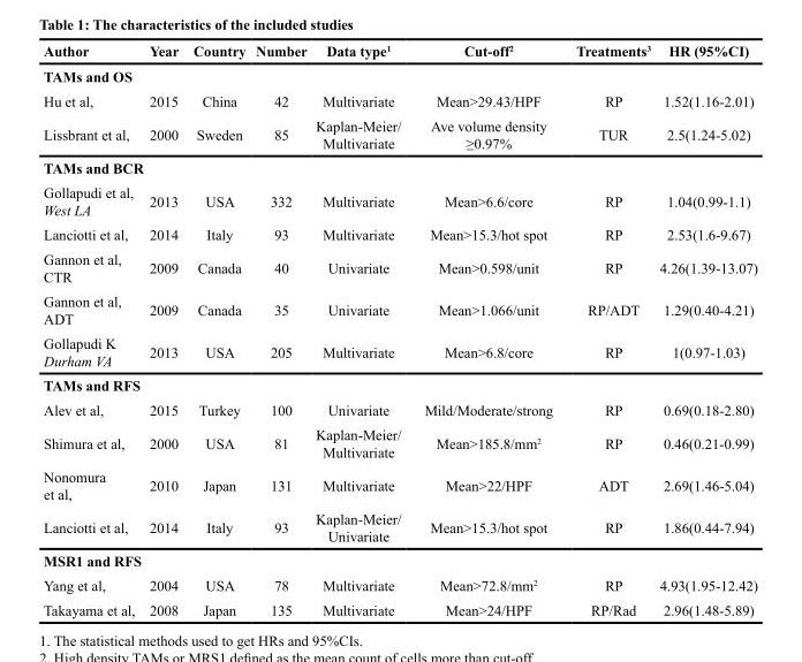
<table><thead><tr><td>Author</td><td>Year</td><td>Country</td><td>Number</td><td>Data type<sup>1</sup></td><td>Cut-off<sup>2</sup></td><td>Treatments<sup>3</sup></td><td>HR (95%CI)</td></tr></thead><tbody><tr><td colspan="8">TAMs and OS</td></tr><tr><td>Hu et al,</td><td>2015</td><td>China</td><td>42</td><td>Multivariate</td><td>Mean&gt;29.43/HPF</td><td>RP</td><td>1.52(1.16-2.01)</td></tr><tr><td>Lissbrant et al,</td><td>2000</td><td>Sweden</td><td>85</td><td>Kaplan-Meier/ Multivariate</td><td>Ave volume density ≥0.97%</td><td>TUR</td><td>2.5(1.24-5.02)</td></tr><tr><td colspan="8">TAMs and BCR</td></tr><tr><td>Gollapudi et al, West LA</td><td>2013</td><td>USA</td><td>332</td><td>Multivariate</td><td>Mean&gt;6.6/core</td><td>RP</td><td>1.04(0.99-1.1)</td></tr><tr><td>Lanciotti et al,</td><td>2014</td><td>Italy</td><td>93</td><td>Multivariate</td><td>Mean&gt;15.3/hot spot</td><td>RP</td><td>2.53(1.6-9.67)</td></tr><tr><td>Gannon et al, CTR</td><td>2009</td><td>Canada</td><td>40</td><td>Univariate</td><td>Mean&gt;0.598/unit</td><td>RP</td><td>4.26(1.39-13.07)</td></tr><tr><td>Gannon et al, ADT</td><td>2009</td><td>Canada</td><td>35</td><td>Univariate</td><td>Mean&gt;1.066/unit</td><td>RP/ADT</td><td>1.29(0.40-4.21)</td></tr><tr><td>Gollapudi K Durham VA</td><td>2013</td><td>USA</td><td>205</td><td>Multivariate</td><td>Mean&gt;6.8/core</td><td>RP</td><td>1(0.97-1.03)</td></tr><tr><td colspan="8">TAMs and RFS</td></tr><tr><td>Alev et al,</td><td>2015</td><td>Turkey</td><td>100</td><td>Univariate</td><td>Mild/Moderate/strong</td><td>RP</td><td>0.69(0.18-2.80)</td></tr><tr><td>Shimura et al,</td><td>2000</td><td>USA</td><td>81</td><td>Kaplan-Meier/ Multivariate</td><td>Mean&gt;185.8/mm<sup>2</sup></td><td>RP</td><td>0.46(0.21-0.99)</td></tr><tr><td>Nonomura et al,</td><td>2010</td><td>Japan</td><td>131</td><td>Multivariate</td><td>Mean&gt;22/HPF</td><td>ADT</td><td>2.69(1.46-5.04)</td></tr><tr><td>Lanciotti et al,</td><td>2014</td><td>Italy</td><td>93</td><td>Kaplan-Meier/ Univariate</td><td>Mean&gt;15.3/hot spot</td><td>RP</td><td>1.86(0.44-7.94)</td></tr><tr><td colspan="8">MSR1 and RFS</td></tr><tr><td>Yang et al,</td><td>2004</td><td>USA</td><td>78</td><td>Multivariate</td><td>Mean&gt;72.8/mm<sup>2</sup></td><td>RP</td><td>4.93(1.95-12.42)</td></tr><tr><td>Takayama et al,</td><td>2008</td><td>Japan</td><td>135</td><td>Multivariate</td><td>Mean&gt;24/HPF</td><td>RP/Rad</td><td>2.96(1.48-5.89)</td></tr></tbody></table>